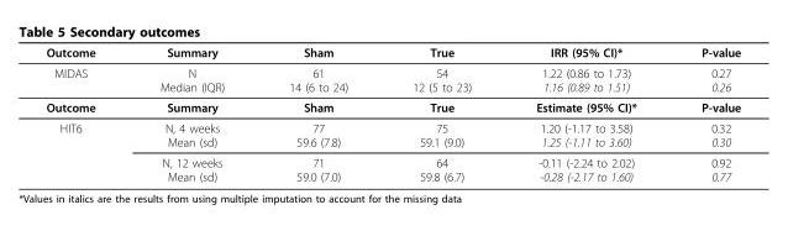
<table><thead><tr><td>Outcome</td><td>Summary</td><td>Sham</td><td>True</td><td>IRR (95% CI)*</td><td>P-value</td></tr></thead><tbody><tr><td>MIDAS</td><td>N Median (IQR)</td><td>61 14 (6 to 24)</td><td>54 12 (5 to 23)</td><td>1.22 (0.86 to 1.73) 1.16 (0.89 to 1.51)</td><td>0.27 0.26</td></tr><tr><td>Outcome</td><td>Summary</td><td>Sham</td><td>True</td><td>Estimate (95% CI)*</td><td>P-value</td></tr><tr><td rowspan="2">HIT6</td><td>N, 4 weeks Mean (sd)</td><td>77 59.6 (7.8)</td><td>75 59.1 (9.0)</td><td>1.20 (-1.17 to 3.58) 1.25 (-1.11 to 3.60)</td><td>0.32 0.30</td></tr><tr><td>N, 12 weeks Mean (sd)</td><td>71 59.0 (7.0)</td><td>64 59.8 (6.7)</td><td>-0.11 (-2.24 to 2.02) -0.28 (-2.17 to 1.60)</td><td>0.92 0.77</td></tr></tbody></table>